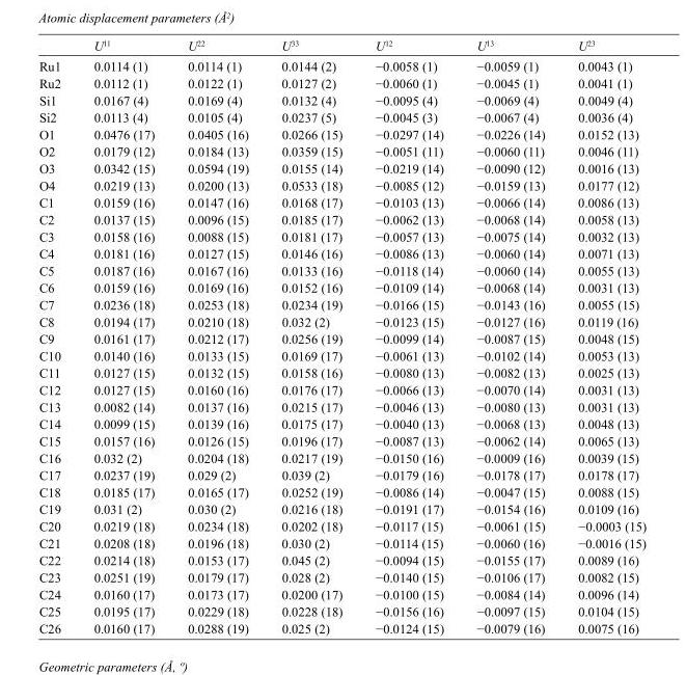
<table><thead><tr><td></td><td>U<sup>11</sup></td><td>U<sup>22</sup></td><td>U<sup>33</sup></td><td>U<sup>12</sup></td><td>U<sup>13</sup></td><td>U<sup>23</sup></td></tr></thead><tbody><tr><td>Ru1</td><td>0.0114 (1)</td><td>0.0114 (1)</td><td>0.0144 (2)</td><td>−0.0058 (1)</td><td>−0.0059 (1)</td><td>0.0043 (1)</td></tr><tr><td>Ru2</td><td>0.0112 (1)</td><td>0.0122 (1)</td><td>0.0127 (2)</td><td>−0.0060 (1)</td><td>−0.0045 (1)</td><td>0.0041 (1)</td></tr><tr><td>Si1</td><td>0.0167 (4)</td><td>0.0169 (4)</td><td>0.0132 (4)</td><td>−0.0095 (4)</td><td>−0.0069 (4)</td><td>0.0049 (4)</td></tr><tr><td>Si2</td><td>0.0113 (4)</td><td>0.0105 (4)</td><td>0.0237 (5)</td><td>−0.0045 (3)</td><td>−0.0067 (4)</td><td>0.0036 (4)</td></tr><tr><td>O1</td><td>0.0476 (17)</td><td>0.0405 (16)</td><td>0.0266 (15)</td><td>−0.0297 (14)</td><td>−0.0226 (14)</td><td>0.0152 (13)</td></tr><tr><td>O2</td><td>0.0179 (12)</td><td>0.0184 (13)</td><td>0.0359 (15)</td><td>−0.0051 (11)</td><td>−0.0060 (11)</td><td>0.0046 (11)</td></tr><tr><td>O3</td><td>0.0342 (15)</td><td>0.0594 (19)</td><td>0.0155 (14)</td><td>−0.0219 (14)</td><td>−0.0090 (12)</td><td>0.0016 (13)</td></tr><tr><td>O4</td><td>0.0219 (13)</td><td>0.0200 (13)</td><td>0.0533 (18)</td><td>−0.0085 (12)</td><td>−0.0159 (13)</td><td>0.0177 (12)</td></tr><tr><td>C1</td><td>0.0159 (16)</td><td>0.0147 (16)</td><td>0.0168 (17)</td><td>−0.0103 (13)</td><td>−0.0066 (14)</td><td>0.0086 (13)</td></tr><tr><td>C2</td><td>0.0137 (15)</td><td>0.0096 (15)</td><td>0.0185 (17)</td><td>−0.0062 (13)</td><td>−0.0068 (14)</td><td>0.0058 (13)</td></tr><tr><td>C3</td><td>0.0158 (16)</td><td>0.0088 (15)</td><td>0.0181 (17)</td><td>−0.0057 (13)</td><td>−0.0075 (14)</td><td>0.0032 (13)</td></tr><tr><td>C4</td><td>0.0181 (16)</td><td>0.0127 (15)</td><td>0.0146 (16)</td><td>−0.0086 (13)</td><td>−0.0060 (14)</td><td>0.0071 (13)</td></tr><tr><td>C5</td><td>0.0187 (16)</td><td>0.0167 (16)</td><td>0.0133 (16)</td><td>−0.0118 (14)</td><td>−0.0060 (14)</td><td>0.0055 (13)</td></tr><tr><td>C6</td><td>0.0159 (16)</td><td>0.0169 (16)</td><td>0.0152 (16)</td><td>−0.0109 (14)</td><td>−0.0068 (14)</td><td>0.0031 (13)</td></tr><tr><td>C7</td><td>0.0236 (18)</td><td>0.0253 (18)</td><td>0.0234 (19)</td><td>−0.0166 (15)</td><td>−0.0143 (16)</td><td>0.0055 (15)</td></tr><tr><td>C8</td><td>0.0194 (17)</td><td>0.0210 (18)</td><td>0.032 (2)</td><td>−0.0123 (15)</td><td>−0.0127 (16)</td><td>0.0119 (16)</td></tr><tr><td>C9</td><td>0.0161 (17)</td><td>0.0212 (17)</td><td>0.0256 (19)</td><td>−0.0099 (14)</td><td>−0.0087 (15)</td><td>0.0048 (15)</td></tr><tr><td>C10</td><td>0.0140 (16)</td><td>0.0133 (15)</td><td>0.0169 (17)</td><td>−0.0061 (13)</td><td>−0.0102 (14)</td><td>0.0053 (13)</td></tr><tr><td>C11</td><td>0.0127 (15)</td><td>0.0132 (15)</td><td>0.0158 (16)</td><td>−0.0080 (13)</td><td>−0.0082 (13)</td><td>0.0025 (13)</td></tr><tr><td>C12</td><td>0.0127 (15)</td><td>0.0160 (16)</td><td>0.0176 (17)</td><td>−0.0066 (13)</td><td>−0.0070 (14)</td><td>0.0031 (13)</td></tr><tr><td>C13</td><td>0.0082 (14)</td><td>0.0137 (16)</td><td>0.0215 (17)</td><td>−0.0046 (13)</td><td>−0.0080 (13)</td><td>0.0031 (13)</td></tr><tr><td>C14</td><td>0.0099 (15)</td><td>0.0139 (16)</td><td>0.0175 (17)</td><td>−0.0040 (13)</td><td>−0.0068 (13)</td><td>0.0048 (13)</td></tr><tr><td>C15</td><td>0.0157 (16)</td><td>0.0126 (15)</td><td>0.0196 (17)</td><td>−0.0087 (13)</td><td>−0.0062 (14)</td><td>0.0065 (13)</td></tr><tr><td>C16</td><td>0.032 (2)</td><td>0.0204 (18)</td><td>0.0217 (19)</td><td>−0.0150 (16)</td><td>−0.0009 (16)</td><td>0.0039 (15)</td></tr><tr><td>C17</td><td>0.0237 (19)</td><td>0.029 (2)</td><td>0.039 (2)</td><td>−0.0179 (16)</td><td>−0.0178 (17)</td><td>0.0178 (17)</td></tr><tr><td>C18</td><td>0.0185 (17)</td><td>0.0165 (17)</td><td>0.0252 (19)</td><td>−0.0086 (14)</td><td>−0.0047 (15)</td><td>0.0088 (15)</td></tr><tr><td>C19</td><td>0.031 (2)</td><td>0.030 (2)</td><td>0.0216 (18)</td><td>−0.0191 (17)</td><td>−0.0154 (16)</td><td>0.0109 (16)</td></tr><tr><td>C20</td><td>0.0219 (18)</td><td>0.0234 (18)</td><td>0.0202 (18)</td><td>−0.0117 (15)</td><td>−0.0061 (15)</td><td>−0.0003 (15)</td></tr><tr><td>C21</td><td>0.0208 (18)</td><td>0.0196 (18)</td><td>0.030 (2)</td><td>−0.0114 (15)</td><td>−0.0060 (16)</td><td>−0.0016 (15)</td></tr><tr><td>C22</td><td>0.0214 (18)</td><td>0.0153 (17)</td><td>0.045 (2)</td><td>−0.0094 (15)</td><td>−0.0155 (17)</td><td>0.0089 (16)</td></tr><tr><td>C23</td><td>0.0251 (19)</td><td>0.0179 (17)</td><td>0.028 (2)</td><td>−0.0140 (15)</td><td>−0.0106 (17)</td><td>0.0082 (15)</td></tr><tr><td>C24</td><td>0.0160 (17)</td><td>0.0173 (17)</td><td>0.0200 (17)</td><td>−0.0100 (15)</td><td>−0.0084 (14)</td><td>0.0096 (14)</td></tr><tr><td>C25</td><td>0.0195 (17)</td><td>0.0229 (18)</td><td>0.0228 (18)</td><td>−0.0156 (16)</td><td>−0.0097 (15)</td><td>0.0104 (15)</td></tr><tr><td>C26</td><td>0.0160 (17)</td><td>0.0288 (19)</td><td>0.025 (2)</td><td>−0.0124 (15)</td><td>−0.0079 (16)</td><td>0.0075 (16)</td></tr></tbody></table>